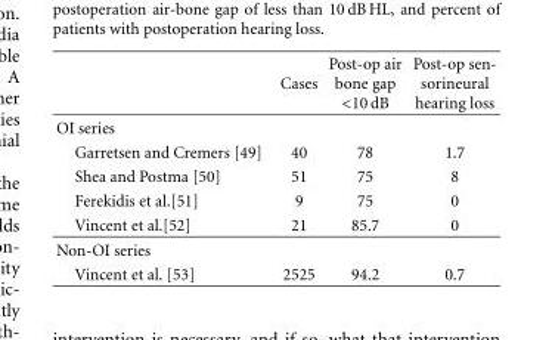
<table><thead><tr><td></td><td>Cases</td><td>Post-op air bone gap &lt;10 dB</td><td>Post-op sen- sorineural hearing loss</td></tr></thead><tbody><tr><td colspan="4">OI series</td></tr><tr><td>Garretsen and Cremers [49]</td><td>40</td><td>78</td><td>1.7</td></tr><tr><td>Shea and Postma [50]</td><td>51</td><td>75</td><td>8</td></tr><tr><td>Ferekidis et al.[51]</td><td>9</td><td>75</td><td>0</td></tr><tr><td>Vincent et al.[52]</td><td>21</td><td>85.7</td><td>0</td></tr><tr><td colspan="4">Non-OI series</td></tr><tr><td>Vincent et al. [53]</td><td>2525</td><td>94.2</td><td>0.7</td></tr></tbody></table>